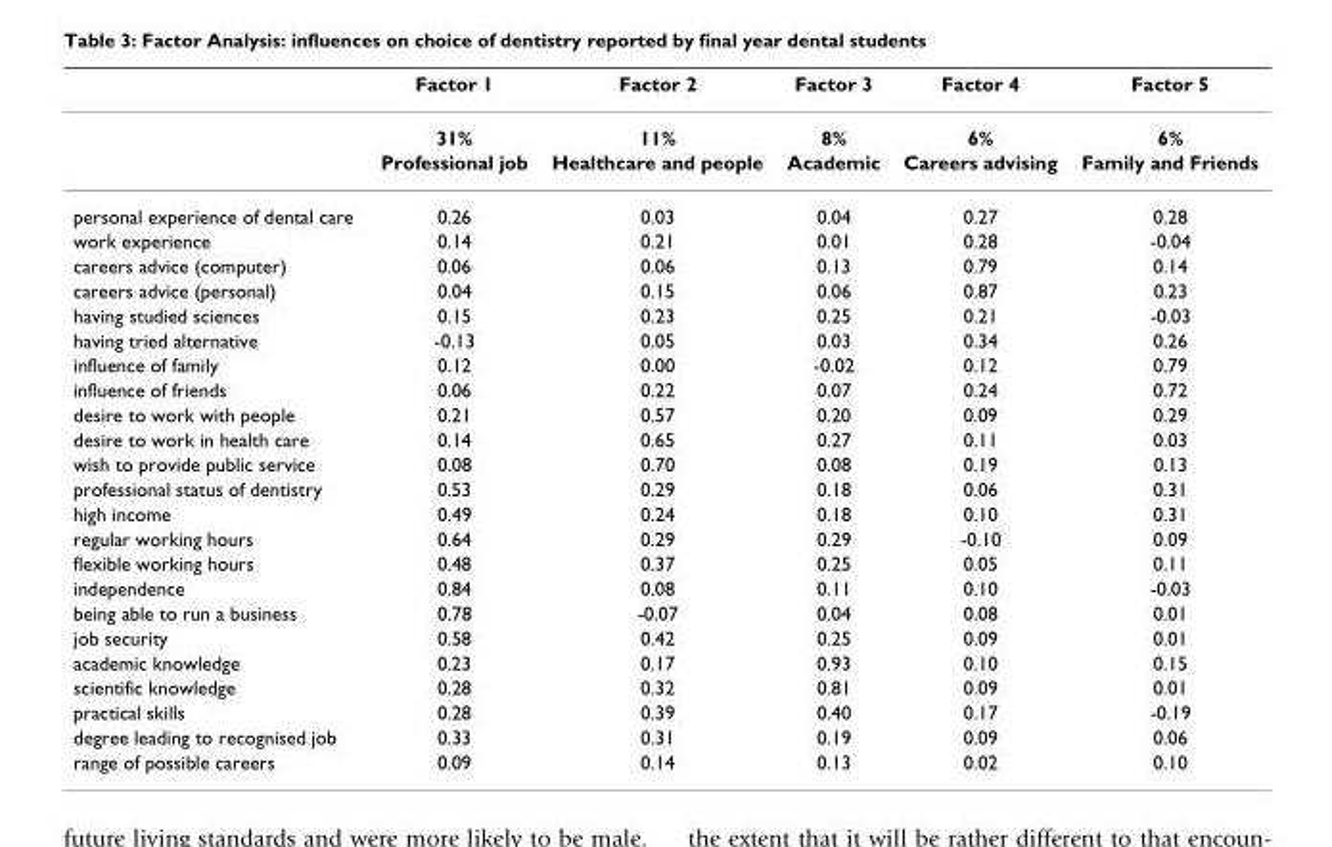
<table><thead><tr><td></td><td>Factor 1</td><td>Factor 2</td><td>Factor 3</td><td>Factor 4</td><td>Factor 5</td></tr></thead><tbody><tr><td></td><td>31%</td><td>11%</td><td>8%</td><td>6%</td><td>6%</td></tr><tr><td></td><td>Professional job</td><td>Healthcare and people</td><td>Academic</td><td>Careers advising</td><td>Family and Friends</td></tr><tr><td>personal experience of dental care</td><td>0.26</td><td>0.03</td><td>0.04</td><td>0.27</td><td>0.28</td></tr><tr><td>work experience</td><td>0.14</td><td>0.21</td><td>0.01</td><td>0.28</td><td>-0.04</td></tr><tr><td>careers advice (computer)</td><td>0.06</td><td>0.06</td><td>0.13</td><td>0.79</td><td>0.14</td></tr><tr><td>careers advice (personal)</td><td>0.04</td><td>0.15</td><td>0.06</td><td>0.87</td><td>0.23</td></tr><tr><td>having studied sciences</td><td>0.15</td><td>0.23</td><td>0.25</td><td>0.21</td><td>-0.03</td></tr><tr><td>having tried alternative</td><td>-0.13</td><td>0.05</td><td>0.03</td><td>0.34</td><td>0.26</td></tr><tr><td>influence of family</td><td>0.12</td><td>0.00</td><td>-0.02</td><td>0.12</td><td>0.79</td></tr><tr><td>influence of friends</td><td>0.06</td><td>0.22</td><td>0.07</td><td>0.24</td><td>0.72</td></tr><tr><td>desire to work with people</td><td>0.21</td><td>0.57</td><td>0.20</td><td>0.09</td><td>0.29</td></tr><tr><td>desire to work in health care</td><td>0.14</td><td>0.65</td><td>0.27</td><td>0.11</td><td>0.03</td></tr><tr><td>wish to provide public service</td><td>0.08</td><td>0.70</td><td>0.08</td><td>0.19</td><td>0.13</td></tr><tr><td>professional status of dentistry</td><td>0.53</td><td>0.29</td><td>0.18</td><td>0.06</td><td>0.31</td></tr><tr><td>high income</td><td>0.49</td><td>0.24</td><td>0.18</td><td>0.10</td><td>0.31</td></tr><tr><td>regular working hours</td><td>0.64</td><td>0.29</td><td>0.29</td><td>-0.10</td><td>0.09</td></tr><tr><td>flexible working hours</td><td>0.48</td><td>0.37</td><td>0.25</td><td>0.05</td><td>0.11</td></tr><tr><td>independence</td><td>0.84</td><td>0.08</td><td>0.11</td><td>0.10</td><td>-0.03</td></tr><tr><td>being able to run a business</td><td>0.78</td><td>-0.07</td><td>0.04</td><td>0.08</td><td>0.01</td></tr><tr><td>job security</td><td>0.58</td><td>0.42</td><td>0.25</td><td>0.09</td><td>0.01</td></tr><tr><td>academic knowledge</td><td>0.23</td><td>0.17</td><td>0.93</td><td>0.10</td><td>0.15</td></tr><tr><td>scientific knowledge</td><td>0.28</td><td>0.32</td><td>0.81</td><td>0.09</td><td>0.01</td></tr><tr><td>practical skills</td><td>0.28</td><td>0.39</td><td>0.40</td><td>0.17</td><td>-0.19</td></tr><tr><td>degree leading to recognised job</td><td>0.33</td><td>0.31</td><td>0.19</td><td>0.09</td><td>0.06</td></tr><tr><td>range of possible careers</td><td>0.09</td><td>0.14</td><td>0.13</td><td>0.02</td><td>0.10</td></tr></tbody></table>